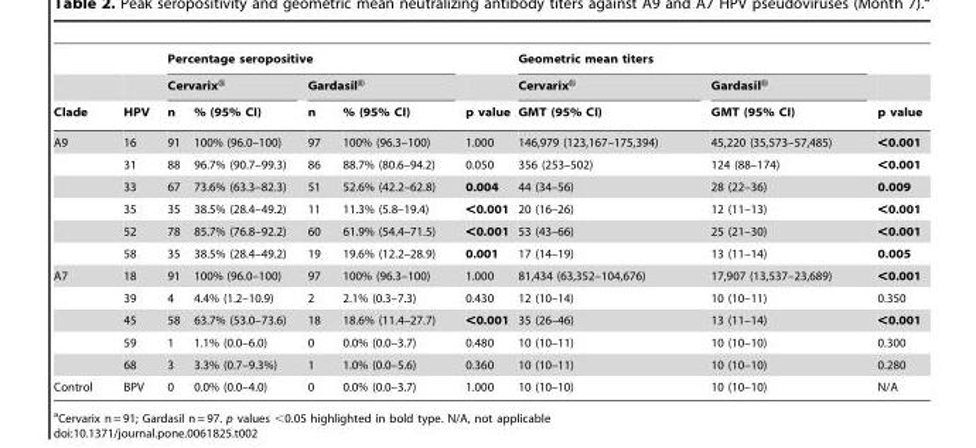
<table><thead><tr><td rowspan="3">Clade</td><td rowspan="3">HPV</td><td colspan="4">Percentage seropositive</td><td rowspan="3">p value</td><td colspan="2">Geometric mean titers</td><td rowspan="3">p value</td></tr><tr><td colspan="2">Cervarix®</td><td colspan="2">Gardasil®</td><td rowspan="2">Cervarix® GMT (95% CI)</td><td rowspan="2">Gardasil® GMT (95% CI)</td></tr><tr><td>n</td><td>% (95% CI)</td><td>n</td><td>% (95% CI)</td></tr></thead><tbody><tr><td rowspan="6">A9</td><td>16</td><td>91</td><td>100% (96.0–100)</td><td>97</td><td>100% (96.3–100)</td><td>1.000</td><td>146,979 (123,167–175,394)</td><td>45,220 (35,573–57,485)</td><td>&lt;0.001</td></tr><tr><td>31</td><td>88</td><td>96.7% (90.7–99.3)</td><td>86</td><td>88.7% (80.6–94.2)</td><td>0.050</td><td>356 (253–502)</td><td>124 (88–174)</td><td>&lt;0.001</td></tr><tr><td>33</td><td>67</td><td>73.6% (63.3–82.3)</td><td>51</td><td>52.6% (42.2–62.8)</td><td>0.004</td><td>44 (34–56)</td><td>28 (22–36)</td><td>0.009</td></tr><tr><td>35</td><td>35</td><td>38.5% (28.4–49.2)</td><td>11</td><td>11.3% (5.8–19.4)</td><td>&lt;0.001</td><td>20 (16–26)</td><td>12 (11–13)</td><td>&lt;0.001</td></tr><tr><td>52</td><td>78</td><td>85.7% (76.8–92.2)</td><td>60</td><td>61.9% (54.4–71.5)</td><td>&lt;0.001</td><td>53 (43–66)</td><td>25 (21–30)</td><td>&lt;0.001</td></tr><tr><td>58</td><td>35</td><td>38.5% (28.4–49.2)</td><td>19</td><td>19.6% (12.2–28.9)</td><td>0.001</td><td>17 (14–19)</td><td>13 (11–14)</td><td>0.005</td></tr><tr><td rowspan="5">A7</td><td>18</td><td>91</td><td>100% (96.0–100)</td><td>97</td><td>100% (96.3–100)</td><td>1.000</td><td>81,434 (63,352–104,676)</td><td>17,907 (13,537–23,689)</td><td>&lt;0.001</td></tr><tr><td>39</td><td>4</td><td>4.4% (1.2–10.9)</td><td>2</td><td>2.1% (0.3–7.3)</td><td>0.430</td><td>12 (10–14)</td><td>10 (10–11)</td><td>0.350</td></tr><tr><td>45</td><td>58</td><td>63.7% (53.0–73.6)</td><td>18</td><td>18.6% (11.4–27.7)</td><td>&lt;0.001</td><td>35 (26–46)</td><td>13 (11–14)</td><td>&lt;0.001</td></tr><tr><td>59</td><td>1</td><td>1.1% (0.0–6.0)</td><td>0</td><td>0.0% (0.0–3.7)</td><td>0.480</td><td>10 (10–11)</td><td>10 (10–10)</td><td>0.300</td></tr><tr><td>68</td><td>3</td><td>3.3% (0.7–9.3%)</td><td>1</td><td>1.0% (0.0–5.6)</td><td>0.360</td><td>10 (10–11)</td><td>10 (10–10)</td><td>0.280</td></tr><tr><td>Control</td><td>BPV</td><td>0</td><td>0.0% (0.0–4.0)</td><td>0</td><td>0.0% (0.0–3.7)</td><td>1.000</td><td>10 (10–10)</td><td>10 (10–10)</td><td>N/A</td></tr></tbody></table>